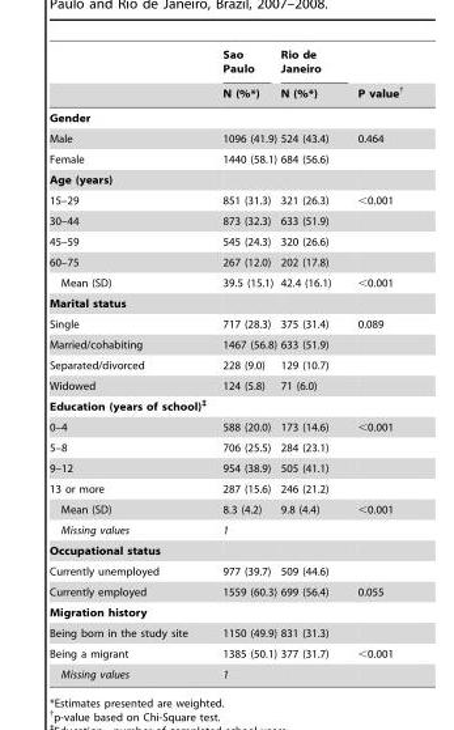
<table><thead><tr><td rowspan="2"></td><td rowspan="2">Sao Paulo N (%*)</td><td rowspan="2">Rio de Janeiro N (%*)</td><td rowspan="2">P value†</td></tr><tr></tr></thead><tbody><tr><td colspan="4">Gender</td></tr><tr><td>Male</td><td>1096 (41.9)</td><td>524 (43.4)</td><td>0.464</td></tr><tr><td>Female</td><td>1440 (58.1)</td><td>684 (56.6)</td><td></td></tr><tr><td colspan="4">Age (years)</td></tr><tr><td>15–29</td><td>851 (31.3)</td><td>321 (26.3)</td><td>&lt;0.001</td></tr><tr><td>30–44</td><td>873 (32.3)</td><td>633 (51.9)</td><td></td></tr><tr><td>45–59</td><td>545 (24.3)</td><td>320 (26.6)</td><td></td></tr><tr><td>60–75</td><td>267 (12.0)</td><td>202 (17.8)</td><td></td></tr><tr><td>Mean (SD)</td><td>39.5 (15.1)</td><td>42.4 (16.1)</td><td>&lt;0.001</td></tr><tr><td colspan="4">Marital status</td></tr><tr><td>Single</td><td>717 (28.3)</td><td>375 (31.4)</td><td>0.089</td></tr><tr><td>Married/cohabiting</td><td>1467 (56.8)</td><td>633 (51.9)</td><td></td></tr><tr><td>Separated/divorced</td><td>228 (9.0)</td><td>129 (10.7)</td><td></td></tr><tr><td>Widowed</td><td>124 (5.8)</td><td>71 (6.0)</td><td></td></tr><tr><td colspan="4">Education (years of school)‡</td></tr><tr><td>0–4</td><td>588 (20.0)</td><td>173 (14.6)</td><td>&lt;0.001</td></tr><tr><td>5–8</td><td>706 (25.5)</td><td>284 (23.1)</td><td></td></tr><tr><td>9–12</td><td>954 (38.9)</td><td>505 (41.1)</td><td></td></tr><tr><td>13 or more</td><td>287 (15.6)</td><td>246 (21.2)</td><td></td></tr><tr><td>Mean (SD)</td><td>8.3 (4.2)</td><td>9.8 (4.4)</td><td>&lt;0.001</td></tr><tr><td>Missing values</td><td>1</td><td></td><td></td></tr><tr><td colspan="4">Occupational status</td></tr><tr><td>Currently unemployed</td><td>977 (39.7)</td><td>509 (44.6)</td><td></td></tr><tr><td>Currently employed</td><td>1559 (60.3)</td><td>699 (56.4)</td><td>0.055</td></tr><tr><td colspan="4">Migration history</td></tr><tr><td>Being born in the study site</td><td>1150 (49.9)</td><td>831 (31.3)</td><td></td></tr><tr><td>Being a migrant</td><td>1385 (50.1)</td><td>377 (31.7)</td><td>&lt;0.001</td></tr><tr><td>Missing values</td><td>1</td><td></td><td></td></tr></tbody></table>